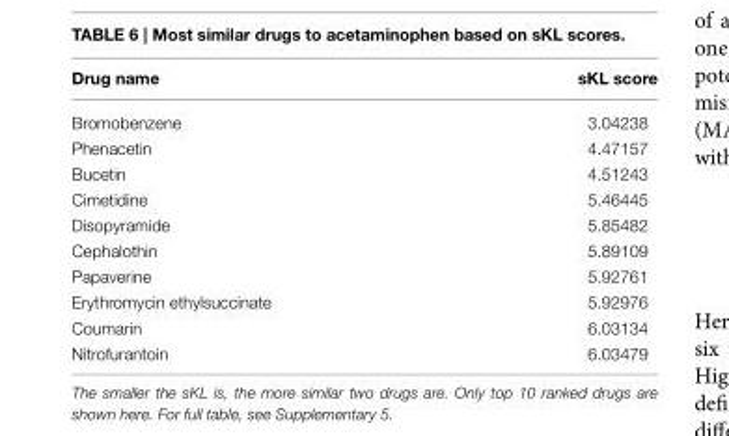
<table><thead><tr><td>Drug name</td><td>sKL score</td></tr></thead><tbody><tr><td>Bromobenzene</td><td>3.04238</td></tr><tr><td>Phenacetin</td><td>4.47157</td></tr><tr><td>Bucetin</td><td>4.51243</td></tr><tr><td>Cimetidine</td><td>5.46445</td></tr><tr><td>Disopyramide</td><td>5.85482</td></tr><tr><td>Cephalothin</td><td>5.89109</td></tr><tr><td>Papaverine</td><td>5.92761</td></tr><tr><td>Erythromycin ethylsuccinate</td><td>5.92976</td></tr><tr><td>Coumarin</td><td>6.03134</td></tr><tr><td>Nitrofurantoin</td><td>6.03479</td></tr></tbody></table>